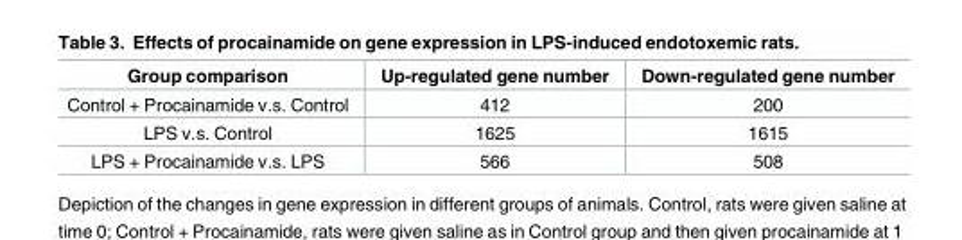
<table><thead><tr><td>Group comparison</td><td>Up-regulated gene number</td><td>Down-regulated gene number</td></tr></thead><tbody><tr><td>Control + Procainamide v.s. Control</td><td>412</td><td>200</td></tr><tr><td>LPS v.s. Control</td><td>1625</td><td>1615</td></tr><tr><td>LPS + Procainamide v.s. LPS</td><td>566</td><td>508</td></tr></tbody></table>